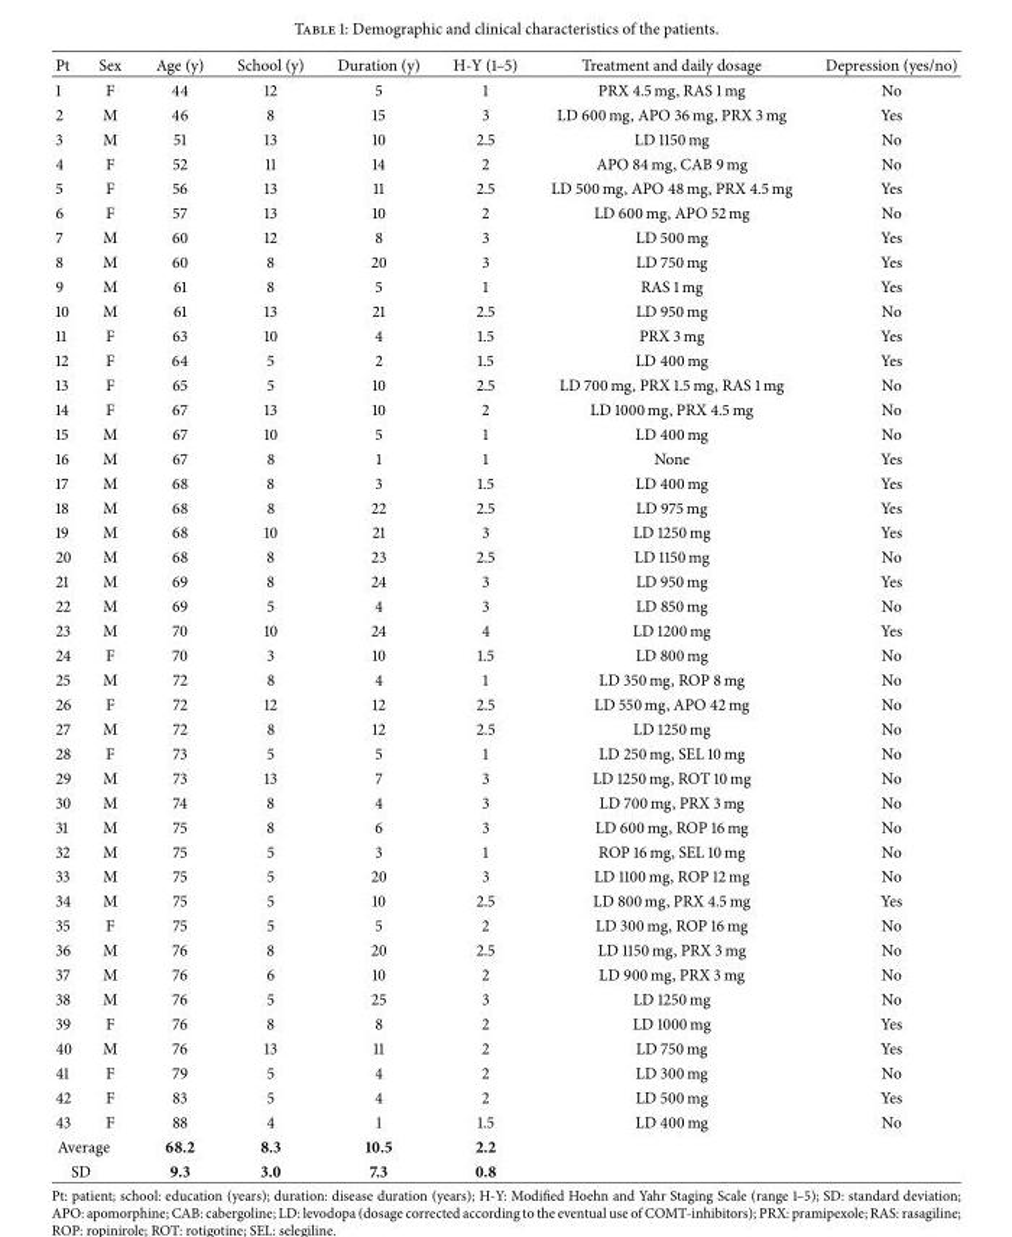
<table><thead><tr><td>Pt</td><td>Sex</td><td>Age (y)</td><td>School (y)</td><td>Duration (y)</td><td>H-Y (1–5)</td><td>Treatment and daily dosage</td><td>Depression (yes/no)</td></tr></thead><tbody><tr><td>1</td><td>F</td><td>44</td><td>12</td><td>5</td><td>1</td><td>PRX 4.5 mg, RAS 1 mg</td><td>No</td></tr><tr><td>2</td><td>M</td><td>46</td><td>8</td><td>15</td><td>3</td><td>LD 600 mg, APO 36 mg, PRX 3 mg</td><td>Yes</td></tr><tr><td>3</td><td>M</td><td>51</td><td>13</td><td>10</td><td>2.5</td><td>LD 1150 mg</td><td>No</td></tr><tr><td>4</td><td>F</td><td>52</td><td>11</td><td>14</td><td>2</td><td>APO 84 mg, CAB 9 mg</td><td>No</td></tr><tr><td>5</td><td>F</td><td>56</td><td>13</td><td>11</td><td>2.5</td><td>LD 500 mg, APO 48 mg, PRX 4.5 mg</td><td>Yes</td></tr><tr><td>6</td><td>F</td><td>57</td><td>13</td><td>10</td><td>2</td><td>LD 600 mg, APO 52 mg</td><td>No</td></tr><tr><td>7</td><td>M</td><td>60</td><td>12</td><td>8</td><td>3</td><td>LD 500 mg</td><td>Yes</td></tr><tr><td>8</td><td>M</td><td>60</td><td>8</td><td>20</td><td>3</td><td>LD 750 mg</td><td>Yes</td></tr><tr><td>9</td><td>M</td><td>61</td><td>8</td><td>5</td><td>1</td><td>RAS 1 mg</td><td>Yes</td></tr><tr><td>10</td><td>M</td><td>61</td><td>13</td><td>21</td><td>2.5</td><td>LD 950 mg</td><td>No</td></tr><tr><td>11</td><td>F</td><td>63</td><td>10</td><td>4</td><td>1.5</td><td>PRX 3 mg</td><td>Yes</td></tr><tr><td>12</td><td>F</td><td>64</td><td>5</td><td>2</td><td>1.5</td><td>LD 400 mg</td><td>Yes</td></tr><tr><td>13</td><td>F</td><td>65</td><td>5</td><td>10</td><td>2.5</td><td>LD 700 mg, PRX 1.5 mg, RAS 1 mg</td><td>No</td></tr><tr><td>14</td><td>F</td><td>67</td><td>13</td><td>10</td><td>2</td><td>LD 1000 mg, PRX 4.5 mg</td><td>No</td></tr><tr><td>15</td><td>M</td><td>67</td><td>10</td><td>5</td><td>1</td><td>LD 400 mg</td><td>No</td></tr><tr><td>16</td><td>M</td><td>67</td><td>8</td><td>1</td><td>1</td><td>None</td><td>Yes</td></tr><tr><td>17</td><td>M</td><td>68</td><td>8</td><td>3</td><td>1.5</td><td>LD 400 mg</td><td>Yes</td></tr><tr><td>18</td><td>M</td><td>68</td><td>8</td><td>22</td><td>2.5</td><td>LD 975 mg</td><td>Yes</td></tr><tr><td>19</td><td>M</td><td>68</td><td>10</td><td>21</td><td>3</td><td>LD 1250 mg</td><td>Yes</td></tr><tr><td>20</td><td>M</td><td>68</td><td>8</td><td>23</td><td>2.5</td><td>LD 1150 mg</td><td>No</td></tr><tr><td>21</td><td>M</td><td>69</td><td>8</td><td>24</td><td>3</td><td>LD 950 mg</td><td>Yes</td></tr><tr><td>22</td><td>M</td><td>69</td><td>5</td><td>4</td><td>3</td><td>LD 850 mg</td><td>No</td></tr><tr><td>23</td><td>M</td><td>70</td><td>10</td><td>24</td><td>4</td><td>LD 1200 mg</td><td>Yes</td></tr><tr><td>24</td><td>F</td><td>70</td><td>3</td><td>10</td><td>1.5</td><td>LD 800 mg</td><td>No</td></tr><tr><td>25</td><td>M</td><td>72</td><td>8</td><td>4</td><td>1</td><td>LD 350 mg, ROP 8 mg</td><td>No</td></tr><tr><td>26</td><td>F</td><td>72</td><td>12</td><td>12</td><td>2.5</td><td>LD 550 mg, APO 42 mg</td><td>No</td></tr><tr><td>27</td><td>M</td><td>72</td><td>8</td><td>12</td><td>2.5</td><td>LD 1250 mg</td><td>No</td></tr><tr><td>28</td><td>F</td><td>73</td><td>5</td><td>5</td><td>1</td><td>LD 250 mg, SEL 10 mg</td><td>No</td></tr><tr><td>29</td><td>M</td><td>73</td><td>13</td><td>7</td><td>3</td><td>LD 1250 mg, ROT 10 mg</td><td>No</td></tr><tr><td>30</td><td>M</td><td>74</td><td>8</td><td>4</td><td>3</td><td>LD 700 mg, PRX 3 mg</td><td>No</td></tr><tr><td>31</td><td>M</td><td>75</td><td>8</td><td>6</td><td>3</td><td>LD 600 mg, ROP 16 mg</td><td>No</td></tr><tr><td>32</td><td>M</td><td>75</td><td>5</td><td>3</td><td>1</td><td>ROP 16 mg, SEL 10 mg</td><td>No</td></tr><tr><td>33</td><td>M</td><td>75</td><td>5</td><td>20</td><td>3</td><td>LD 1100 mg, ROP 12 mg</td><td>No</td></tr><tr><td>34</td><td>M</td><td>75</td><td>5</td><td>10</td><td>2.5</td><td>LD 800 mg, PRX 4.5 mg</td><td>Yes</td></tr><tr><td>35</td><td>F</td><td>75</td><td>5</td><td>5</td><td>2</td><td>LD 300 mg, ROP 16 mg</td><td>No</td></tr><tr><td>36</td><td>M</td><td>76</td><td>8</td><td>20</td><td>2.5</td><td>LD 1150 mg, PRX 3 mg</td><td>No</td></tr><tr><td>37</td><td>M</td><td>76</td><td>6</td><td>10</td><td>2</td><td>LD 900 mg, PRX 3 mg</td><td>No</td></tr><tr><td>38</td><td>M</td><td>76</td><td>5</td><td>25</td><td>3</td><td>LD 1250 mg</td><td>No</td></tr><tr><td>39</td><td>F</td><td>76</td><td>8</td><td>8</td><td>2</td><td>LD 1000 mg</td><td>Yes</td></tr><tr><td>40</td><td>M</td><td>76</td><td>13</td><td>11</td><td>2</td><td>LD 750 mg</td><td>Yes</td></tr><tr><td>41</td><td>F</td><td>79</td><td>5</td><td>4</td><td>2</td><td>LD 300 mg</td><td>No</td></tr><tr><td>42</td><td>F</td><td>83</td><td>5</td><td>4</td><td>2</td><td>LD 500 mg</td><td>Yes</td></tr><tr><td>43</td><td>F</td><td>88</td><td>4</td><td>1</td><td>1.5</td><td>LD 400 mg</td><td>No</td></tr><tr><td colspan="2">Average</td><td>68.2</td><td>8.3</td><td>10.5</td><td>2.2</td><td></td><td></td></tr><tr><td colspan="2">SD</td><td>9.3</td><td>3.0</td><td>7.3</td><td>0.8</td><td></td><td></td></tr></tbody></table>